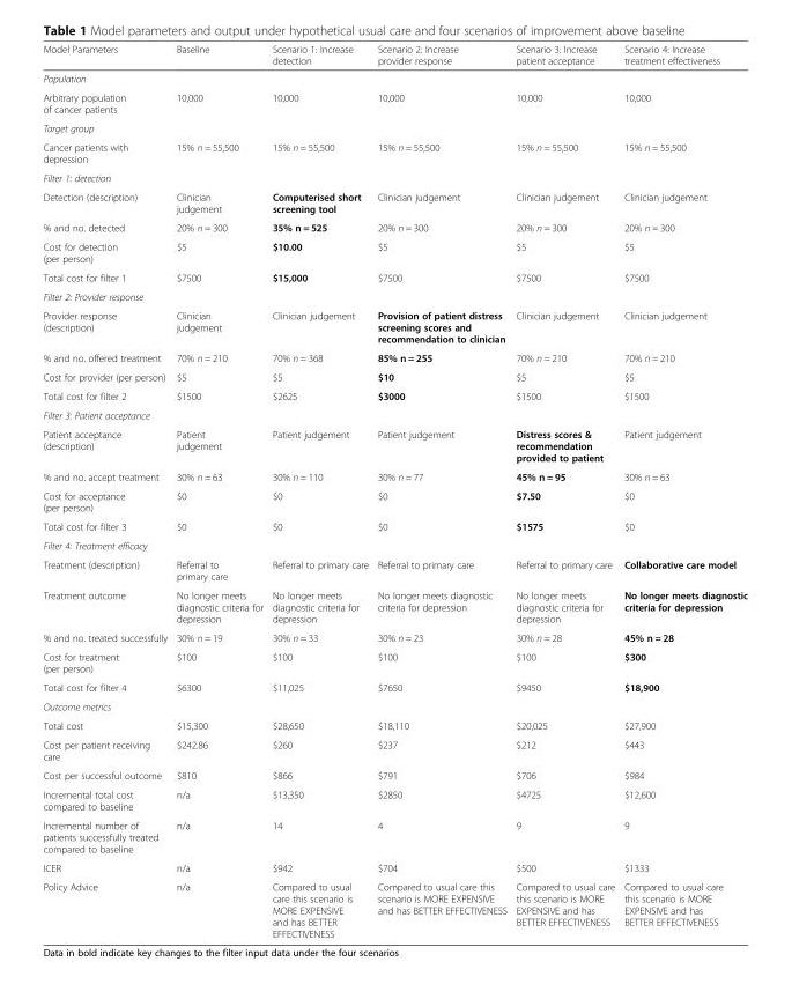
<table><thead><tr><td>Model Parameters</td><td>Baseline</td><td>Scenario 1: Increase detection</td><td>Scenario 2: Increase provider response</td><td>Scenario 3: Increase patient acceptance</td><td>Scenario 4: Increase treatment effectiveness</td></tr></thead><tbody><tr><td colspan="6">Population</td></tr><tr><td>Arbitrary population of cancer patients</td><td>10,000</td><td>10,000</td><td>10,000</td><td>10,000</td><td>10,000</td></tr><tr><td colspan="6">Target group</td></tr><tr><td>Cancer patients with depression</td><td>15% n = 55,500</td><td>15% n = 55,500</td><td>15% n = 55,500</td><td>15% n = 55,500</td><td>15% n = 55,500</td></tr><tr><td colspan="6">Filter 1: detection</td></tr><tr><td>Detection (description)</td><td>Clinician judgement</td><td>Computerised short screening tool</td><td>Clinician judgement</td><td>Clinician judgement</td><td>Clinician judgement</td></tr><tr><td>% and no. detected</td><td>20% n = 300</td><td>35% n = 525</td><td>20% n = 300</td><td>20% n = 300</td><td>20% n = 300</td></tr><tr><td>Cost for detection (per person)</td><td>$5</td><td>$10.00</td><td>$5</td><td>$5</td><td>$5</td></tr><tr><td>Total cost for filter 1</td><td>$7500</td><td>$15,000</td><td>$7500</td><td>$7500</td><td>$7500</td></tr><tr><td colspan="6">Filter 2: Provider response</td></tr><tr><td>Provider response (description)</td><td>Clinician judgement</td><td>Clinician judgement</td><td>Provision of patient distress screening scores and recommendation to clinician</td><td>Clinician judgement</td><td>Clinician judgement</td></tr><tr><td>% and no. offered treatment</td><td>70% n = 210</td><td>70% n = 368</td><td>85% n = 255</td><td>70% n = 210</td><td>70% n = 210</td></tr><tr><td>Cost for provider (per person)</td><td>$5</td><td>$5</td><td>$10</td><td>$5</td><td>$5</td></tr><tr><td>Total cost for filter 2</td><td>$1500</td><td>$2625</td><td>$3000</td><td>$1500</td><td>$1500</td></tr><tr><td colspan="6">Filter 3: Patient acceptance</td></tr><tr><td>Patient acceptance (description)</td><td>Patient judgement</td><td>Patient judgement</td><td>Patient judgement</td><td>Distress scores &amp; recommendation provided to patient</td><td>Patient judgement</td></tr><tr><td>% and no. accept treatment</td><td>30% n = 63</td><td>30% n = 110</td><td>30% n = 77</td><td>45% n = 95</td><td>30% n = 63</td></tr><tr><td>Cost for acceptance (per person)</td><td>$0</td><td>$0</td><td>$0</td><td>$7.50</td><td>$0</td></tr><tr><td>Total cost for filter 3</td><td>$0</td><td>$0</td><td>$0</td><td>$1575</td><td>$0</td></tr><tr><td colspan="6">Filter 4: Treatment efficacy</td></tr><tr><td>Treatment (description)</td><td>Referral to primary care</td><td>Referral to primary care</td><td>Referral to primary care</td><td>Referral to primary care</td><td>Collaborative care model</td></tr><tr><td>Treatment outcome</td><td>No longer meets diagnostic criteria for depression</td><td>No longer meets diagnostic criteria for depression</td><td>No longer meets diagnostic criteria for depression</td><td>No longer meets diagnostic criteria for depression</td><td>No longer meets diagnostic criteria for depression</td></tr><tr><td>% and no. treated successfully</td><td>30% n = 19</td><td>30% n = 33</td><td>30% n = 23</td><td>30% n = 28</td><td>45% n = 28</td></tr><tr><td>Cost for treatment (per person)</td><td>$100</td><td>$100</td><td>$100</td><td>$100</td><td>$300</td></tr><tr><td>Total cost for filter 4</td><td>$6300</td><td>$11,025</td><td>$7650</td><td>$9450</td><td>$18,900</td></tr><tr><td colspan="6">Outcome metrics</td></tr><tr><td>Total cost</td><td>$15,300</td><td>$28,650</td><td>$18,110</td><td>$20,025</td><td>$27,900</td></tr><tr><td>Cost per patient receiving care</td><td>$242.86</td><td>$260</td><td>$237</td><td>$212</td><td>$443</td></tr><tr><td>Cost per successful outcome</td><td>$810</td><td>$866</td><td>$791</td><td>$706</td><td>$984</td></tr><tr><td>Incremental total cost compared to baseline</td><td>n/a</td><td>$13,350</td><td>$2850</td><td>$4725</td><td>$12,600</td></tr><tr><td>Incremental number of patients successfully treated compared to baseline</td><td>n/a</td><td>14</td><td>4</td><td>9</td><td>9</td></tr><tr><td>ICER</td><td>n/a</td><td>$942</td><td>$704</td><td>$500</td><td>$1333</td></tr><tr><td>Policy Advice</td><td>n/a</td><td>Compared to usual care this scenario is MORE EXPENSIVE and has BETTER EFFECTIVENESS</td><td>Compared to usual care this scenario is MORE EXPENSIVE and has BETTER EFFECTIVENESS</td><td>Compared to usual care this scenario is MORE EXPENSIVE and has BETTER EFFECTIVENESS</td><td>Compared to usual care this scenario is MORE EXPENSIVE and has BETTER EFFECTIVENESS</td></tr></tbody></table>